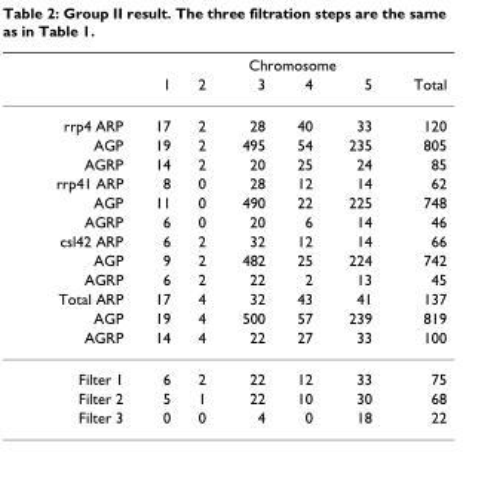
<table><thead><tr><td rowspan="2"></td><td colspan="6">Chromosome</td></tr><tr><td>1</td><td>2</td><td>3</td><td>4</td><td>5</td><td>Total</td></tr></thead><tbody><tr><td>rrp4 ARP</td><td>17</td><td>2</td><td>28</td><td>40</td><td>33</td><td>120</td></tr><tr><td>AGP</td><td>19</td><td>2</td><td>495</td><td>54</td><td>235</td><td>805</td></tr><tr><td>AGRP</td><td>14</td><td>2</td><td>20</td><td>25</td><td>24</td><td>85</td></tr><tr><td>rrp41 ARP</td><td>8</td><td>0</td><td>28</td><td>12</td><td>14</td><td>62</td></tr><tr><td>AGP</td><td>11</td><td>0</td><td>490</td><td>22</td><td>225</td><td>748</td></tr><tr><td>AGRP</td><td>6</td><td>0</td><td>20</td><td>6</td><td>14</td><td>46</td></tr><tr><td>csl42 ARP</td><td>6</td><td>2</td><td>32</td><td>12</td><td>14</td><td>66</td></tr><tr><td>AGP</td><td>9</td><td>2</td><td>482</td><td>25</td><td>224</td><td>742</td></tr><tr><td>AGRP</td><td>6</td><td>2</td><td>22</td><td>2</td><td>13</td><td>45</td></tr><tr><td>Total ARP</td><td>17</td><td>4</td><td>32</td><td>43</td><td>41</td><td>137</td></tr><tr><td>AGP</td><td>19</td><td>4</td><td>500</td><td>57</td><td>239</td><td>819</td></tr><tr><td>AGRP</td><td>14</td><td>4</td><td>22</td><td>27</td><td>33</td><td>100</td></tr><tr><td>Filter 1</td><td>6</td><td>2</td><td>22</td><td>12</td><td>33</td><td>75</td></tr><tr><td>Filter 2</td><td>5</td><td>1</td><td>22</td><td>10</td><td>30</td><td>68</td></tr><tr><td>Filter 3</td><td>0</td><td>0</td><td>4</td><td>0</td><td>18</td><td>22</td></tr></tbody></table>